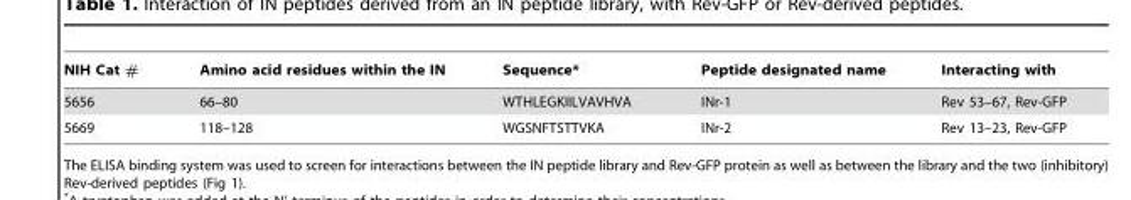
<table><thead><tr><td>NIH Cat #</td><td>Amino acid residues within the IN</td><td>Sequence*</td><td>Peptide designated name</td><td>Interacting with</td></tr></thead><tbody><tr><td>5656</td><td>66–80</td><td>WTHLEGKIILVAVHVA</td><td>INr-1</td><td>Rev 53–67, Rev-GFP</td></tr><tr><td>5669</td><td>118–128</td><td>WGSNFTSTTVKA</td><td>INr-2</td><td>Rev 13–23, Rev-GFP</td></tr></tbody></table>